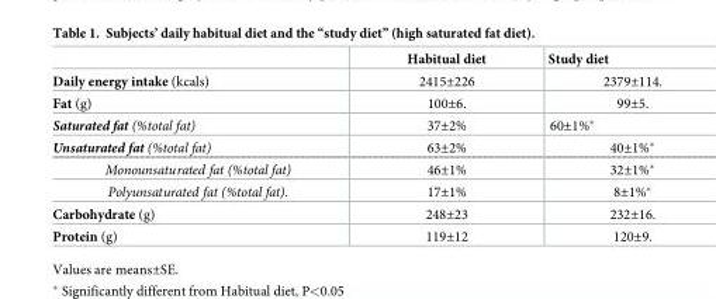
<table><thead><tr><td></td><td>Habitual diet</td><td>Study diet</td></tr></thead><tbody><tr><td>Daily energy intake (kcals)</td><td>2415±226</td><td>2379±114.</td></tr><tr><td>Fat (g)</td><td>100±6.</td><td>99±5.</td></tr><tr><td>Saturated fat (%total fat)</td><td>37±2%</td><td>60±1%*</td></tr><tr><td>Unsaturated fat (%total fat)</td><td>63±2%</td><td>40±1%*</td></tr><tr><td>Monounsaturated fat (%total fat)</td><td>46±1%</td><td>32±1%*</td></tr><tr><td>Polyunsaturated fat (%total fat).</td><td>17±1%</td><td>8±1%*</td></tr><tr><td>Carbohydrate (g)</td><td>248±23</td><td>232±16.</td></tr><tr><td>Protein (g)</td><td>119±12</td><td>120±9.</td></tr></tbody></table>